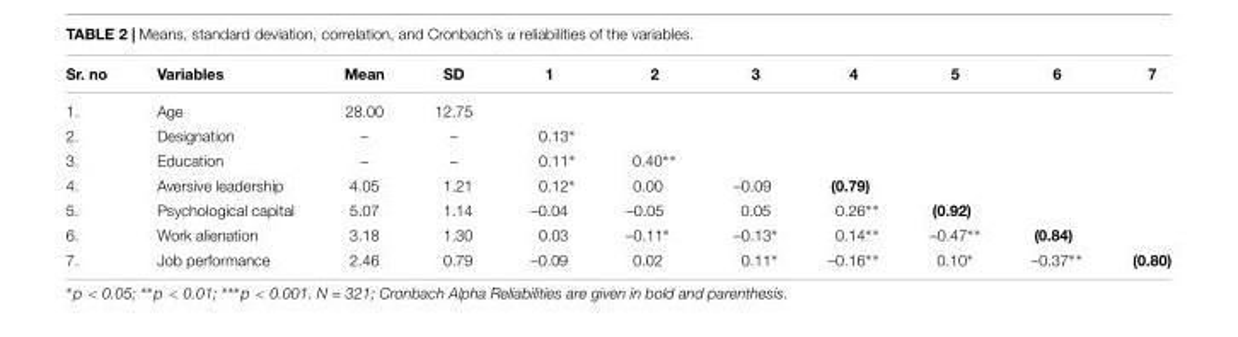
<table><thead><tr><td>Sr. no</td><td>Variables</td><td>Mean</td><td>SD</td><td>1</td><td>2</td><td>3</td><td>4</td><td>5</td><td>6</td><td>7</td></tr></thead><tbody><tr><td>1.</td><td>Age</td><td>28.00</td><td>12.75</td><td></td><td></td><td></td><td></td><td></td><td></td><td></td></tr><tr><td>2.</td><td>Designation</td><td>–</td><td>–</td><td>0.13∗</td><td></td><td></td><td></td><td></td><td></td><td></td></tr><tr><td>3.</td><td>Education</td><td>–</td><td>–</td><td>0.11∗</td><td>0.40∗∗</td><td></td><td></td><td></td><td></td><td></td></tr><tr><td>4.</td><td>Aversive leadership</td><td>4.05</td><td>1.21</td><td>0.12∗</td><td>0.00</td><td>–0.09</td><td>(0.79)</td><td></td><td></td><td></td></tr><tr><td>5.</td><td>Psychological capital</td><td>5.07</td><td>1.14</td><td>–0.04</td><td>–0.05</td><td>0.05</td><td>0.26∗∗</td><td>(0.92)</td><td></td><td></td></tr><tr><td>6.</td><td>Work alienation</td><td>3.18</td><td>1.30</td><td>0.03</td><td>–0.11∗</td><td>–0.13∗</td><td>0.14∗∗</td><td>–0.47∗∗</td><td>(0.84)</td><td></td></tr><tr><td>7.</td><td>Job performance</td><td>2.46</td><td>0.79</td><td>–0.09</td><td>0.02</td><td>0.11∗</td><td>–0.16∗∗</td><td>0.10∗</td><td>–0.37∗∗</td><td>(0.80)</td></tr></tbody></table>